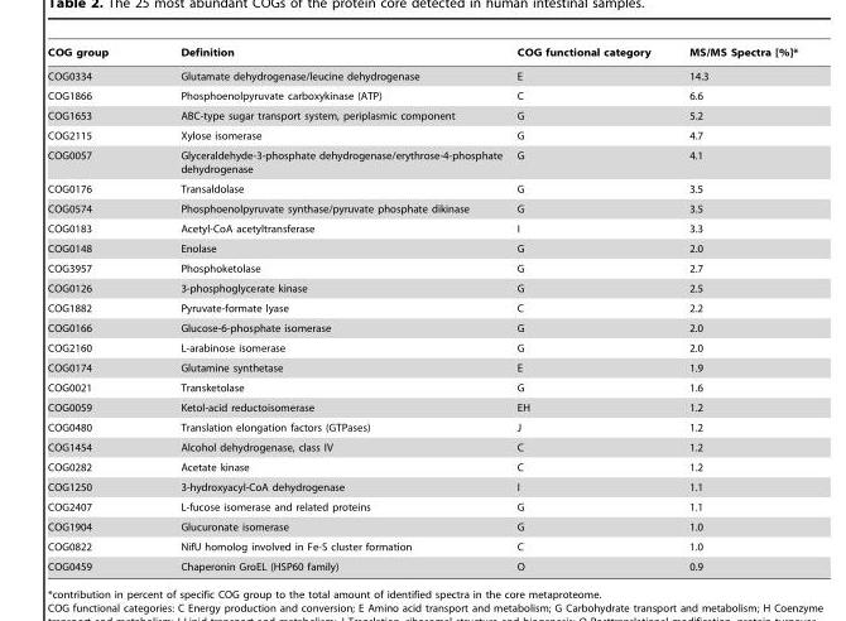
<table><thead><tr><td>COG group</td><td>Definition</td><td>COG functional category</td><td>MS/MS Spectra [%]*</td></tr></thead><tbody><tr><td>COG0334</td><td>Glutamate dehydrogenase/leucine dehydrogenase</td><td>E</td><td>14.3</td></tr><tr><td>COG1866</td><td>Phosphoenolpyruvate carboxykinase (ATP)</td><td>C</td><td>6.6</td></tr><tr><td>COG1653</td><td>ABC-type sugar transport system, periplasmic component</td><td>G</td><td>5.2</td></tr><tr><td>COG2115</td><td>Xylose isomerase</td><td>G</td><td>4.7</td></tr><tr><td>COG0057</td><td>Glyceraldehyde-3-phosphate dehydrogenase/erythrose-4-phosphate dehydrogenase</td><td>G</td><td>4.1</td></tr><tr><td>COG0176</td><td>Transaldolase</td><td>G</td><td>3.5</td></tr><tr><td>COG0574</td><td>Phosphoenolpyruvate synthase/pyruvate phosphate dikinase</td><td>G</td><td>3.5</td></tr><tr><td>COG0183</td><td>Acetyl-CoA acetyltransferase</td><td>I</td><td>3.3</td></tr><tr><td>COG0148</td><td>Enolase</td><td>G</td><td>2.0</td></tr><tr><td>COG3957</td><td>Phosphoketolase</td><td>G</td><td>2.7</td></tr><tr><td>COG0126</td><td>3-phosphoglycerate kinase</td><td>G</td><td>2.5</td></tr><tr><td>COG1882</td><td>Pyruvate-formate lyase</td><td>C</td><td>2.2</td></tr><tr><td>COG0166</td><td>Glucose-6-phosphate isomerase</td><td>G</td><td>2.0</td></tr><tr><td>COG2160</td><td>L-arabinose isomerase</td><td>G</td><td>2.0</td></tr><tr><td>COG0174</td><td>Glutamine synthetase</td><td>E</td><td>1.9</td></tr><tr><td>COG0021</td><td>Transketolase</td><td>G</td><td>1.6</td></tr><tr><td>COG0059</td><td>Ketol-acid reductoisomerase</td><td>EH</td><td>1.2</td></tr><tr><td>COG0480</td><td>Translation elongation factors (GTPases)</td><td>J</td><td>1.2</td></tr><tr><td>COG1454</td><td>Alcohol dehydrogenase, class IV</td><td>C</td><td>1.2</td></tr><tr><td>COG0282</td><td>Acetate kinase</td><td>C</td><td>1.2</td></tr><tr><td>COG1250</td><td>3-hydroxyacyl-CoA dehydrogenase</td><td>I</td><td>1.1</td></tr><tr><td>COG2407</td><td>L-fucose isomerase and related proteins</td><td>G</td><td>1.1</td></tr><tr><td>COG1904</td><td>Glucuronate isomerase</td><td>G</td><td>1.0</td></tr><tr><td>COG0822</td><td>NifU homolog involved in Fe-S cluster formation</td><td>C</td><td>1.0</td></tr><tr><td>COG0459</td><td>Chaperonin GroEL (HSP60 family)</td><td>O</td><td>0.9</td></tr></tbody></table>